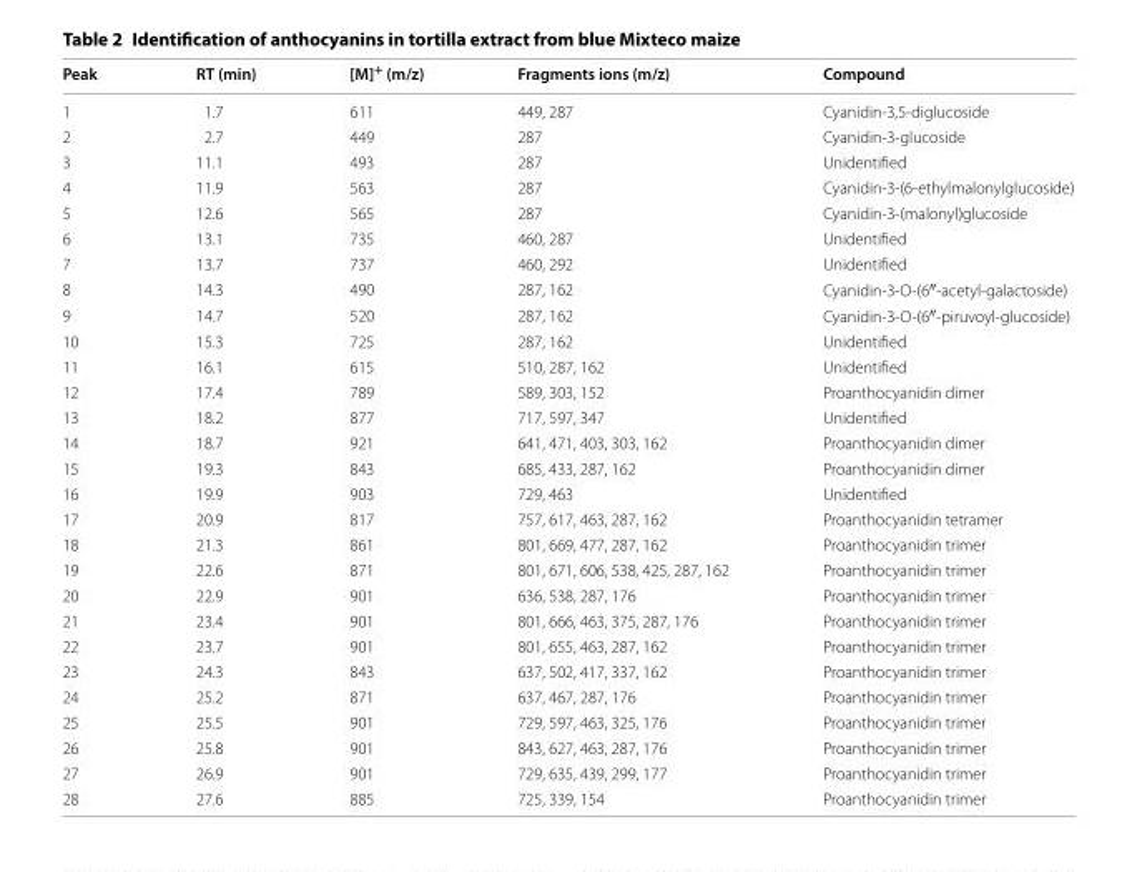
<table><thead><tr><td>Peak</td><td>RT (min)</td><td>[M]<sup>+</sup> (m/z)</td><td>Fragments ions (m/z)</td><td>Compound</td></tr></thead><tbody><tr><td>1</td><td>1.7</td><td>611</td><td>449, 287</td><td>Cyanidin‑3,5‑diglucoside</td></tr><tr><td>2</td><td>2.7</td><td>449</td><td>287</td><td>Cyanidin‑3‑glucoside</td></tr><tr><td>3</td><td>11.1</td><td>493</td><td>287</td><td>Unidentified</td></tr><tr><td>4</td><td>11.9</td><td>563</td><td>287</td><td>Cyanidin‑3‑(6‑ethylmalonylglucoside)</td></tr><tr><td>5</td><td>12.6</td><td>565</td><td>287</td><td>Cyanidin‑3‑(malonyl)glucoside</td></tr><tr><td>6</td><td>13.1</td><td>735</td><td>460, 287</td><td>Unidentified</td></tr><tr><td>7</td><td>13.7</td><td>737</td><td>460, 292</td><td>Unidentified</td></tr><tr><td>8</td><td>14.3</td><td>490</td><td>287, 162</td><td>Cyanidin‑3‑O‑(6″‑acetyl‑galactoside)</td></tr><tr><td>9</td><td>14.7</td><td>520</td><td>287, 162</td><td>Cyanidin‑3‑O‑(6″‑piruvoyl‑glucoside)</td></tr><tr><td>10</td><td>15.3</td><td>725</td><td>287, 162</td><td>Unidentified</td></tr><tr><td>11</td><td>16.1</td><td>615</td><td>510, 287, 162</td><td>Unidentified</td></tr><tr><td>12</td><td>17.4</td><td>789</td><td>589, 303, 152</td><td>Proanthocyanidin dimer</td></tr><tr><td>13</td><td>18.2</td><td>877</td><td>717, 597, 347</td><td>Unidentified</td></tr><tr><td>14</td><td>18.7</td><td>921</td><td>641, 471, 403, 303, 162</td><td>Proanthocyanidin dimer</td></tr><tr><td>15</td><td>19.3</td><td>843</td><td>685, 433, 287, 162</td><td>Proanthocyanidin dimer</td></tr><tr><td>16</td><td>19.9</td><td>903</td><td>729, 463</td><td>Unidentified</td></tr><tr><td>17</td><td>20.9</td><td>817</td><td>757, 617, 463, 287, 162</td><td>Proanthocyanidin tetramer</td></tr><tr><td>18</td><td>21.3</td><td>861</td><td>801, 669, 477, 287, 162</td><td>Proanthocyanidin trimer</td></tr><tr><td>19</td><td>22.6</td><td>871</td><td>801, 671, 606, 538, 425, 287, 162</td><td>Proanthocyanidin trimer</td></tr><tr><td>20</td><td>22.9</td><td>901</td><td>636, 538, 287, 176</td><td>Proanthocyanidin trimer</td></tr><tr><td>21</td><td>23.4</td><td>901</td><td>801, 666, 463, 375, 287, 176</td><td>Proanthocyanidin trimer</td></tr><tr><td>22</td><td>23.7</td><td>901</td><td>801, 655, 463, 287, 162</td><td>Proanthocyanidin trimer</td></tr><tr><td>23</td><td>24.3</td><td>843</td><td>637, 502, 417, 337, 162</td><td>Proanthocyanidin trimer</td></tr><tr><td>24</td><td>25.2</td><td>871</td><td>637, 467, 287, 176</td><td>Proanthocyanidin trimer</td></tr><tr><td>25</td><td>25.5</td><td>901</td><td>729, 597, 463, 325, 176</td><td>Proanthocyanidin trimer</td></tr><tr><td>26</td><td>25.8</td><td>901</td><td>843, 627, 463, 287, 176</td><td>Proanthocyanidin trimer</td></tr><tr><td>27</td><td>26.9</td><td>901</td><td>729, 635, 439, 299, 177</td><td>Proanthocyanidin trimer</td></tr><tr><td>28</td><td>27.6</td><td>885</td><td>725, 339, 154</td><td>Proanthocyanidin trimer</td></tr></tbody></table>